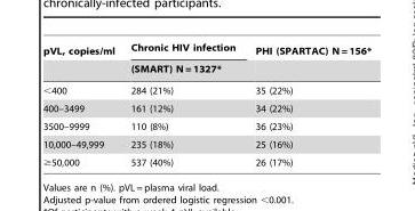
<table><thead><tr><td rowspan="2">pVL, copies/ml</td><td rowspan="2">Chronic HIV infection (SMART) N = 1327*</td><td rowspan="2">PHI (SPARTAC) N = 156*</td></tr><tr></tr></thead><tbody><tr><td>&lt;400</td><td>284 (21%)</td><td>35 (22%)</td></tr><tr><td>400–3499</td><td>161 (12%)</td><td>34 (22%)</td></tr><tr><td>3500–9999</td><td>110 (8%)</td><td>36 (23%)</td></tr><tr><td>10,000–49,999</td><td>235 (18%)</td><td>25 (16%)</td></tr><tr><td>≥50,000</td><td>537 (40%)</td><td>26 (17%)</td></tr></tbody></table>